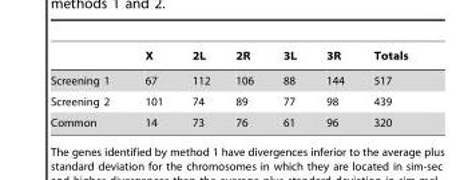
<table><thead><tr><td></td><td>X</td><td>2L</td><td>2R</td><td>3L</td><td>3R</td><td>Totals</td></tr></thead><tbody><tr><td>Screening 1</td><td>67</td><td>112</td><td>106</td><td>88</td><td>144</td><td>517</td></tr><tr><td>Screening 2</td><td>101</td><td>74</td><td>89</td><td>77</td><td>98</td><td>439</td></tr><tr><td>Common</td><td>14</td><td>73</td><td>76</td><td>61</td><td>96</td><td>320</td></tr></tbody></table>